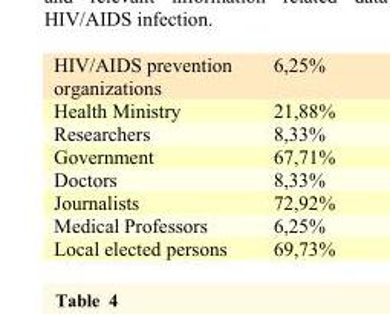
<table><tbody><tr><td>HIV/AIDS prevention organizations</td><td>6,25%</td></tr><tr><td>Health Ministry</td><td>21,88%</td></tr><tr><td>Researchers</td><td>8,33%</td></tr><tr><td>Government</td><td>67,71%</td></tr><tr><td>Doctors</td><td>8,33%</td></tr><tr><td>Journalists</td><td>72,92%</td></tr><tr><td>Medical Professors</td><td>6,25%</td></tr><tr><td>Local elected persons</td><td>69,73%</td></tr></tbody></table>